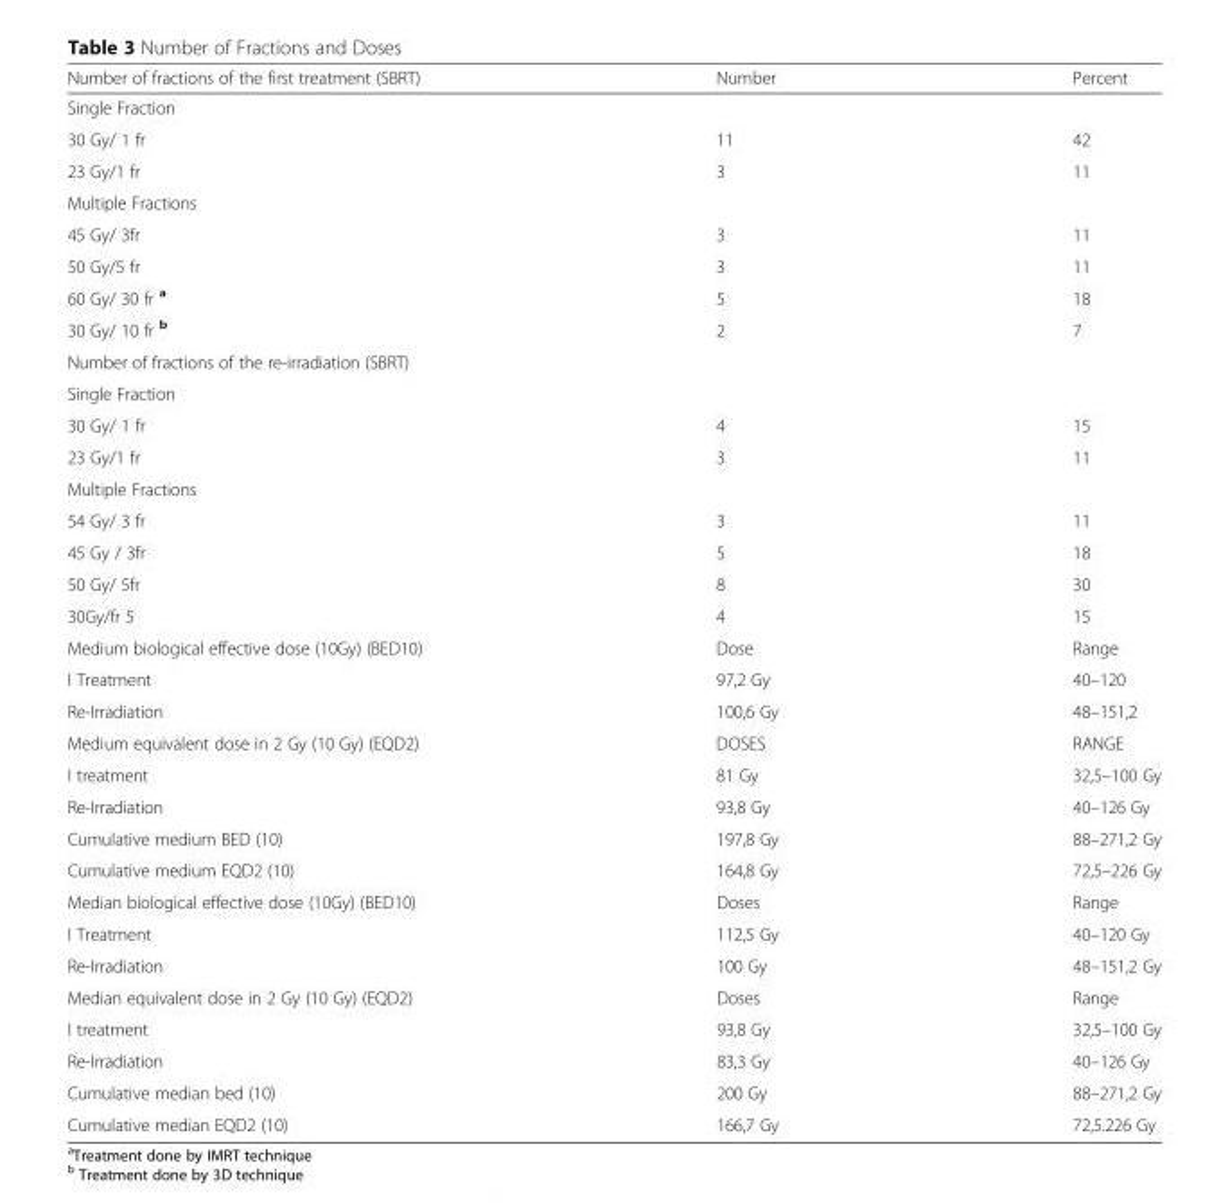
<table><thead><tr><td>Number of fractions of the first treatment (SBRT)</td><td>Number</td><td>Percent</td></tr></thead><tbody><tr><td colspan="3">Single Fraction</td></tr><tr><td>30 Gy/ 1 fr</td><td>11</td><td>42</td></tr><tr><td>23 Gy/1 fr</td><td>3</td><td>11</td></tr><tr><td colspan="3">Multiple Fractions</td></tr><tr><td>45 Gy/ 3fr</td><td>3</td><td>11</td></tr><tr><td>50 Gy/5 fr</td><td>3</td><td>11</td></tr><tr><td>60 Gy/ 30 fr <sup>a</sup></td><td>5</td><td>18</td></tr><tr><td>30 Gy/ 10 fr <sup>b</sup></td><td>2</td><td>7</td></tr><tr><td colspan="3">Number of fractions of the re-irradiation (SBRT)</td></tr><tr><td colspan="3">Single Fraction</td></tr><tr><td>30 Gy/ 1 fr</td><td>4</td><td>15</td></tr><tr><td>23 Gy/1 fr</td><td>3</td><td>11</td></tr><tr><td colspan="3">Multiple Fractions</td></tr><tr><td>54 Gy/ 3 fr</td><td>3</td><td>11</td></tr><tr><td>45 Gy / 3fr</td><td>5</td><td>18</td></tr><tr><td>50 Gy/ 5fr</td><td>8</td><td>30</td></tr><tr><td>30Gy/fr 5</td><td>4</td><td>15</td></tr><tr><td>Medium biological effective dose (10Gy) (BED10)</td><td>Dose</td><td>Range</td></tr><tr><td>I Treatment</td><td>97,2 Gy</td><td>40–120</td></tr><tr><td>Re-Irradiation</td><td>100,6 Gy</td><td>48–151,2</td></tr><tr><td>Medium equivalent dose in 2 Gy (10 Gy) (EQD2)</td><td>DOSES</td><td>RANGE</td></tr><tr><td>I treatment</td><td>81 Gy</td><td>32,5–100 Gy</td></tr><tr><td>Re-Irradiation</td><td>93,8 Gy</td><td>40–126 Gy</td></tr><tr><td>Cumulative medium BED (10)</td><td>197,8 Gy</td><td>88–271,2 Gy</td></tr><tr><td>Cumulative medium EQD2 (10)</td><td>164,8 Gy</td><td>72,5–226 Gy</td></tr><tr><td>Median biological effective dose (10Gy) (BED10)</td><td>Doses</td><td>Range</td></tr><tr><td>I Treatment</td><td>112,5 Gy</td><td>40–120 Gy</td></tr><tr><td>Re-Irradiation</td><td>100 Gy</td><td>48–151,2 Gy</td></tr><tr><td>Median equivalent dose in 2 Gy (10 Gy) (EQD2)</td><td>Doses</td><td>Range</td></tr><tr><td>I treatment</td><td>93,8 Gy</td><td>32,5–100 Gy</td></tr><tr><td>Re-Irradiation</td><td>83,3 Gy</td><td>40–126 Gy</td></tr><tr><td>Cumulative median bed (10)</td><td>200 Gy</td><td>88–271,2 Gy</td></tr><tr><td>Cumulative median EQD2 (10)</td><td>166,7 Gy</td><td>72,5.226 Gy</td></tr></tbody></table>